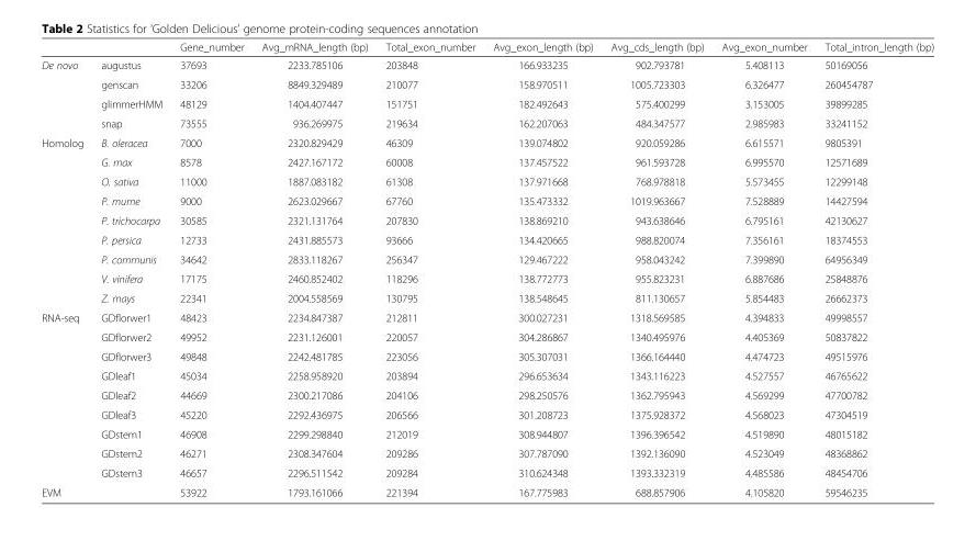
<table><thead><tr><td></td><td></td><td>Gene_number</td><td>Avg_mRNA_length (bp)</td><td>Total_exon_number</td><td>Avg_exon_length (bp)</td><td>Avg_cds_length (bp)</td><td>Avg_exon_number</td><td>Total_intron_length (bp)</td></tr></thead><tbody><tr><td rowspan="4">De novo</td><td>augustus</td><td>37693</td><td>2233.785106</td><td>203848</td><td>166.933235</td><td>902.793781</td><td>5.408113</td><td>50169056</td></tr><tr><td>genscan</td><td>33206</td><td>8849.329489</td><td>210077</td><td>158.970511</td><td>1005.723303</td><td>6.326477</td><td>260454787</td></tr><tr><td>glimmerHMM</td><td>48129</td><td>1404.407447</td><td>151751</td><td>182.492643</td><td>575.400299</td><td>3.153005</td><td>39899285</td></tr><tr><td>snap</td><td>73555</td><td>936.269975</td><td>219634</td><td>162.207063</td><td>484.347577</td><td>2.985983</td><td>33241152</td></tr><tr><td rowspan="9">Homolog</td><td>B. oleracea</td><td>7000</td><td>2320.829429</td><td>46309</td><td>139.074802</td><td>920.059286</td><td>6.615571</td><td>9805391</td></tr><tr><td>G. max</td><td>8578</td><td>2427.167172</td><td>60008</td><td>137.457522</td><td>961.593728</td><td>6.995570</td><td>12571689</td></tr><tr><td>O. sativa</td><td>11000</td><td>1887.083182</td><td>61308</td><td>137.971668</td><td>768.978818</td><td>5.573455</td><td>12299148</td></tr><tr><td>P. mume</td><td>9000</td><td>2623.029667</td><td>67760</td><td>135.473332</td><td>1019.963667</td><td>7.528889</td><td>14427594</td></tr><tr><td>P. trichocarpa</td><td>30585</td><td>2321.131764</td><td>207830</td><td>138.869210</td><td>943.638646</td><td>6.795161</td><td>42130627</td></tr><tr><td>P. persica</td><td>12733</td><td>2431.885573</td><td>93666</td><td>134.420665</td><td>988.820074</td><td>7.356161</td><td>18374553</td></tr><tr><td>P. communis</td><td>34642</td><td>2833.118267</td><td>256347</td><td>129.467222</td><td>958.043242</td><td>7.399890</td><td>64956349</td></tr><tr><td>V. vinifera</td><td>17175</td><td>2460.852402</td><td>118296</td><td>138.772773</td><td>955.823231</td><td>6.887686</td><td>25848876</td></tr><tr><td>Z. mays</td><td>22341</td><td>2004.558569</td><td>130795</td><td>138.548645</td><td>811.130657</td><td>5.854483</td><td>26662373</td></tr><tr><td rowspan="9">RNA-seq</td><td>GDflorwer1</td><td>48423</td><td>2234.847387</td><td>212811</td><td>300.027231</td><td>1318.569585</td><td>4.394833</td><td>49998557</td></tr><tr><td>GDflorwer2</td><td>49952</td><td>2231.126001</td><td>220057</td><td>304.286867</td><td>1340.495976</td><td>4.405369</td><td>50837822</td></tr><tr><td>GDflorwer3</td><td>49848</td><td>2242.481785</td><td>223056</td><td>305.307031</td><td>1366.164440</td><td>4.474723</td><td>49515976</td></tr><tr><td>GDleaf1</td><td>45034</td><td>2258.958920</td><td>203894</td><td>296.653634</td><td>1343.116223</td><td>4.527557</td><td>46765622</td></tr><tr><td>GDleaf2</td><td>44669</td><td>2300.217086</td><td>204106</td><td>298.250576</td><td>1362.795943</td><td>4.569299</td><td>47700782</td></tr><tr><td>GDleaf3</td><td>45220</td><td>2292.436975</td><td>206566</td><td>301.208723</td><td>1375.928372</td><td>4.568023</td><td>47304519</td></tr><tr><td>GDstem1</td><td>46908</td><td>2299.298840</td><td>212019</td><td>308.944807</td><td>1396.396542</td><td>4.519890</td><td>48015182</td></tr><tr><td>GDstem2</td><td>46271</td><td>2308.347604</td><td>209286</td><td>307.787090</td><td>1392.136090</td><td>4.523049</td><td>48368862</td></tr><tr><td>GDstem3</td><td>46657</td><td>2296.511542</td><td>209284</td><td>310.624348</td><td>1393.332319</td><td>4.485586</td><td>48454706</td></tr><tr><td>EVM</td><td></td><td>53922</td><td>1793.161066</td><td>221394</td><td>167.775983</td><td>688.857906</td><td>4.105820</td><td>59546235</td></tr></tbody></table>